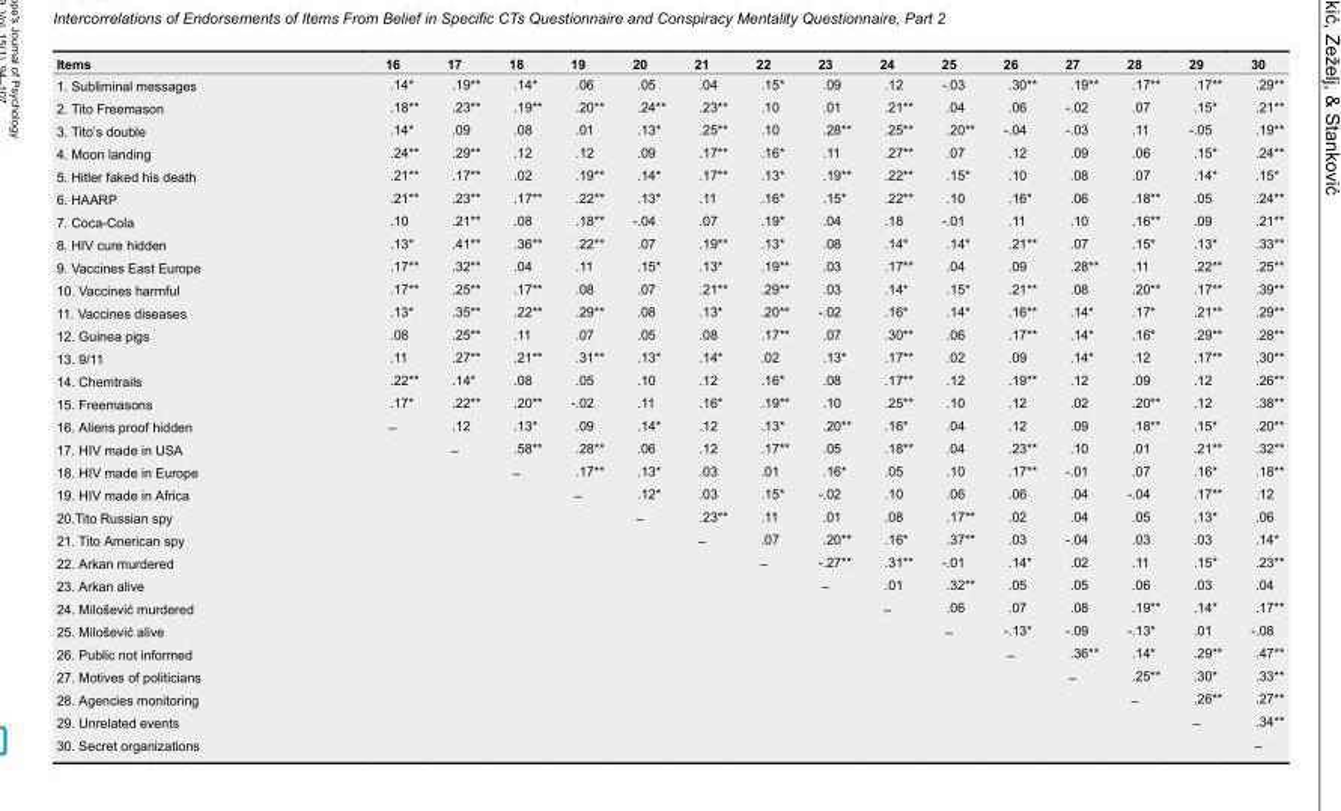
<table><thead><tr><td>Items</td><td>16</td><td>17</td><td>18</td><td>19</td><td>20</td><td>21</td><td>22</td><td>23</td><td>24</td><td>25</td><td>26</td><td>27</td><td>28</td><td>29</td><td>30</td></tr></thead><tbody><tr><td>1. Subliminal messages</td><td>.14*</td><td>.19**</td><td>.14*</td><td>.06</td><td>.05</td><td>.04</td><td>.15*</td><td>.09</td><td>.12</td><td>-.03</td><td>.30**</td><td>.19**</td><td>.17**</td><td>.17**</td><td>.29**</td></tr><tr><td>2. Tito Freemason</td><td>.18**</td><td>.23**</td><td>.19**</td><td>.20**</td><td>.24**</td><td>.23**</td><td>.10</td><td>.01</td><td>.21**</td><td>.04</td><td>.06</td><td>-.02</td><td>.07</td><td>.15*</td><td>.21**</td></tr><tr><td>3. Tito’s double</td><td>.14*</td><td>.09</td><td>.08</td><td>.01</td><td>.13*</td><td>.25**</td><td>.10</td><td>.28**</td><td>.25**</td><td>.20**</td><td>-.04</td><td>-.03</td><td>.11</td><td>-.05</td><td>.19**</td></tr><tr><td>4. Moon landing</td><td>.24**</td><td>.29**</td><td>.12</td><td>.12</td><td>.09</td><td>.17**</td><td>.16*</td><td>.11</td><td>.27**</td><td>.07</td><td>.12</td><td>.09</td><td>.06</td><td>.15*</td><td>.24**</td></tr><tr><td>5. Hitler faked his death</td><td>.21**</td><td>.17**</td><td>.02</td><td>.19**</td><td>.14*</td><td>.17**</td><td>.13*</td><td>.19**</td><td>.22**</td><td>.15*</td><td>.10</td><td>.08</td><td>.07</td><td>.14*</td><td>.15*</td></tr><tr><td>6. HAARP</td><td>.21**</td><td>.23**</td><td>.17**</td><td>.22**</td><td>.13*</td><td>.11</td><td>.16*</td><td>.15*</td><td>.22**</td><td>.10</td><td>.16*</td><td>.06</td><td>.18**</td><td>.05</td><td>.24**</td></tr><tr><td>7. Coca-Cola</td><td>.10</td><td>.21**</td><td>.08</td><td>.18**</td><td>-.04</td><td>.07</td><td>.19*</td><td>.04</td><td>.18</td><td>-.01</td><td>.11</td><td>.10</td><td>.16**</td><td>.09</td><td>.21**</td></tr><tr><td>8. HIV cure hidden</td><td>.13*</td><td>.41**</td><td>.36**</td><td>.22**</td><td>.07</td><td>.19**</td><td>.13*</td><td>.08</td><td>.14*</td><td>.14*</td><td>.21**</td><td>.07</td><td>.15*</td><td>.13*</td><td>.33**</td></tr><tr><td>9. Vaccines East Europe</td><td>.17**</td><td>.32**</td><td>.04</td><td>.11</td><td>.15*</td><td>.13*</td><td>.19**</td><td>.03</td><td>.17**</td><td>.04</td><td>.09</td><td>.28**</td><td>.11</td><td>.22**</td><td>.25**</td></tr><tr><td>10. Vaccines harmful</td><td>.17**</td><td>.25**</td><td>.17**</td><td>.08</td><td>.07</td><td>.21**</td><td>.29**</td><td>.03</td><td>.14*</td><td>.15*</td><td>.21**</td><td>.08</td><td>.20**</td><td>.17**</td><td>.39**</td></tr><tr><td>11. Vaccines diseases</td><td>.13*</td><td>.35**</td><td>.22**</td><td>.29**</td><td>.08</td><td>.13*</td><td>.20**</td><td>-.02</td><td>.16*</td><td>.14*</td><td>.16**</td><td>.14*</td><td>.17*</td><td>.21**</td><td>.29**</td></tr><tr><td>12. Guinea pigs</td><td>.08</td><td>.25**</td><td>.11</td><td>.07</td><td>.05</td><td>.08</td><td>.17**</td><td>.07</td><td>.30**</td><td>.06</td><td>.17**</td><td>.14*</td><td>.16*</td><td>.29**</td><td>.28**</td></tr><tr><td>13. 9/11</td><td>.11</td><td>.27**</td><td>.21**</td><td>.31**</td><td>.13*</td><td>.14*</td><td>.02</td><td>.13*</td><td>.17**</td><td>.02</td><td>.09</td><td>.14*</td><td>.12</td><td>.17**</td><td>.30**</td></tr><tr><td>14. Chemtrails</td><td>.22**</td><td>.14*</td><td>.08</td><td>.05</td><td>.10</td><td>.12</td><td>.16*</td><td>.08</td><td>.17**</td><td>.12</td><td>.19**</td><td>.12</td><td>.09</td><td>.12</td><td>.26**</td></tr><tr><td>15. Freemasons</td><td>.17*</td><td>.22**</td><td>.20**</td><td>-.02</td><td>.11</td><td>.16*</td><td>.19**</td><td>.10</td><td>.25**</td><td>.10</td><td>.12</td><td>.02</td><td>.20**</td><td>.12</td><td>.38**</td></tr><tr><td>16. Aliens proof hidden</td><td>–</td><td>.12</td><td>.13*</td><td>.09</td><td>.14*</td><td>.12</td><td>.13*</td><td>.20**</td><td>.16*</td><td>.04</td><td>.12</td><td>.09</td><td>.18**</td><td>.15*</td><td>.20**</td></tr><tr><td>17. HIV made in USA</td><td></td><td>–</td><td>.58**</td><td>.28**</td><td>.06</td><td>.12</td><td>.17**</td><td>.05</td><td>.18**</td><td>.04</td><td>.23**</td><td>.10</td><td>.01</td><td>.21**</td><td>.32**</td></tr><tr><td>18. HIV made in Europe</td><td></td><td></td><td>–</td><td>.17**</td><td>.13*</td><td>.03</td><td>.01</td><td>.16*</td><td>.05</td><td>.10</td><td>.17**</td><td>-.01</td><td>.07</td><td>.16*</td><td>.18**</td></tr><tr><td>19. HIV made in Africa</td><td></td><td></td><td></td><td>–</td><td>.12*</td><td>.03</td><td>.15*</td><td>-.02</td><td>.10</td><td>.06</td><td>.06</td><td>.04</td><td>-.04</td><td>.17**</td><td>.12</td></tr><tr><td>20.Tito Russian spy</td><td></td><td></td><td></td><td></td><td>–</td><td>.23**</td><td>.11</td><td>.01</td><td>.08</td><td>.17**</td><td>.02</td><td>.04</td><td>.05</td><td>.13*</td><td>.06</td></tr><tr><td>21. Tito American spy</td><td></td><td></td><td></td><td></td><td></td><td>–</td><td>.07</td><td>.20**</td><td>.16*</td><td>.37**</td><td>.03</td><td>-.04</td><td>.03</td><td>.03</td><td>.14*</td></tr><tr><td>22. Arkan murdered</td><td></td><td></td><td></td><td></td><td></td><td></td><td>–</td><td>-.27**</td><td>.31**</td><td>-.01</td><td>.14*</td><td>.02</td><td>.11</td><td>.15*</td><td>.23**</td></tr><tr><td>23. Arkan alive</td><td></td><td></td><td></td><td></td><td></td><td></td><td></td><td>–</td><td>.01</td><td>.32**</td><td>.05</td><td>.05</td><td>.06</td><td>.03</td><td>.04</td></tr><tr><td>24. Milošević murdered</td><td></td><td></td><td></td><td></td><td></td><td></td><td></td><td></td><td>–</td><td>.06</td><td>.07</td><td>.08</td><td>.19**</td><td>.14*</td><td>.17**</td></tr><tr><td>25. Milošević alive</td><td></td><td></td><td></td><td></td><td></td><td></td><td></td><td></td><td></td><td>–</td><td>-.13*</td><td>-.09</td><td>-.13*</td><td>.01</td><td>-.08</td></tr><tr><td>26. Public not informed</td><td></td><td></td><td></td><td></td><td></td><td></td><td></td><td></td><td></td><td></td><td>–</td><td>.36**</td><td>.14*</td><td>.29**</td><td>.47**</td></tr><tr><td>27. Motives of politicians</td><td></td><td></td><td></td><td></td><td></td><td></td><td></td><td></td><td></td><td></td><td></td><td>–</td><td>.25**</td><td>.30*</td><td>.33**</td></tr><tr><td>28. Agencies monitoring</td><td></td><td></td><td></td><td></td><td></td><td></td><td></td><td></td><td></td><td></td><td></td><td></td><td>–</td><td>.26**</td><td>.27**</td></tr><tr><td>29. Unrelated events</td><td></td><td></td><td></td><td></td><td></td><td></td><td></td><td></td><td></td><td></td><td></td><td></td><td></td><td>–</td><td>.34**</td></tr><tr><td>30. Secret organizations</td><td></td><td></td><td></td><td></td><td></td><td></td><td></td><td></td><td></td><td></td><td></td><td></td><td></td><td></td><td>–</td></tr></tbody></table>